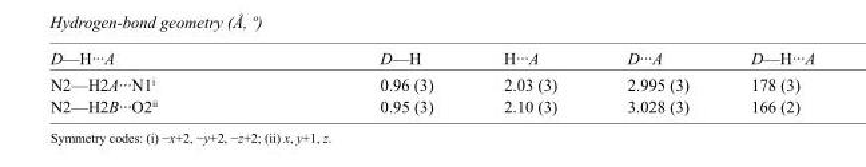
<table><tbody><tr><td>D—H···A</td><td>D—H</td><td>H···A</td><td>D···A</td><td>D—H···A</td></tr><tr><td>N2—H2A···N1<sup>i</sup></td><td>0.96 (3)</td><td>2.03 (3)</td><td>2.995 (3)</td><td>178 (3)</td></tr><tr><td>N2—H2B···O2<sup>ii</sup></td><td>0.95 (3)</td><td>2.10 (3)</td><td>3.028 (3)</td><td>166 (2)</td></tr></tbody></table>